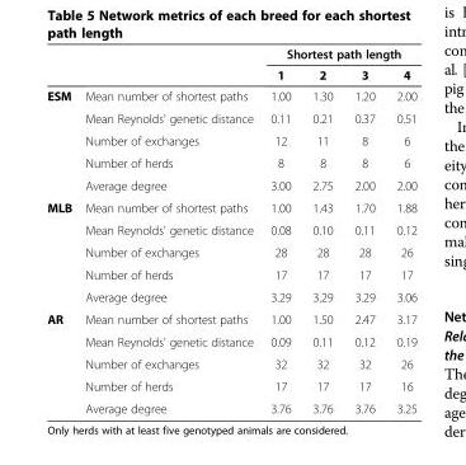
<table><thead><tr><td rowspan="2"></td><td rowspan="2"></td><td colspan="4">Shortest path length</td></tr><tr><td>1</td><td>2</td><td>3</td><td>4</td></tr></thead><tbody><tr><td rowspan="5">ESM</td><td>Mean number of shortest paths</td><td>1.00</td><td>1.30</td><td>1.20</td><td>2.00</td></tr><tr><td>Mean Reynolds&#x27; genetic distance</td><td>0.11</td><td>0.21</td><td>0.37</td><td>0.51</td></tr><tr><td>Number of exchanges</td><td>12</td><td>11</td><td>8</td><td>6</td></tr><tr><td>Number of herds</td><td>8</td><td>8</td><td>8</td><td>6</td></tr><tr><td>Average degree</td><td>3.00</td><td>2.75</td><td>2.00</td><td>2.00</td></tr><tr><td rowspan="5">MLB</td><td>Mean number of shortest paths</td><td>1.00</td><td>1.43</td><td>1.70</td><td>1.88</td></tr><tr><td>Mean Reynolds&#x27; genetic distance</td><td>0.08</td><td>0.10</td><td>0.11</td><td>0.12</td></tr><tr><td>Number of exchanges</td><td>28</td><td>28</td><td>28</td><td>26</td></tr><tr><td>Number of herds</td><td>17</td><td>17</td><td>17</td><td>17</td></tr><tr><td>Average degree</td><td>3.29</td><td>3.29</td><td>3.29</td><td>3.06</td></tr><tr><td rowspan="5">AR</td><td>Mean number of shortest paths</td><td>1.00</td><td>1.50</td><td>2.47</td><td>3.17</td></tr><tr><td>Mean Reynolds&#x27; genetic distance</td><td>0.09</td><td>0.11</td><td>0.12</td><td>0.19</td></tr><tr><td>Number of exchanges</td><td>32</td><td>32</td><td>32</td><td>26</td></tr><tr><td>Number of herds</td><td>17</td><td>17</td><td>17</td><td>16</td></tr><tr><td>Average degree</td><td>3.76</td><td>3.76</td><td>3.76</td><td>3.25</td></tr></tbody></table>